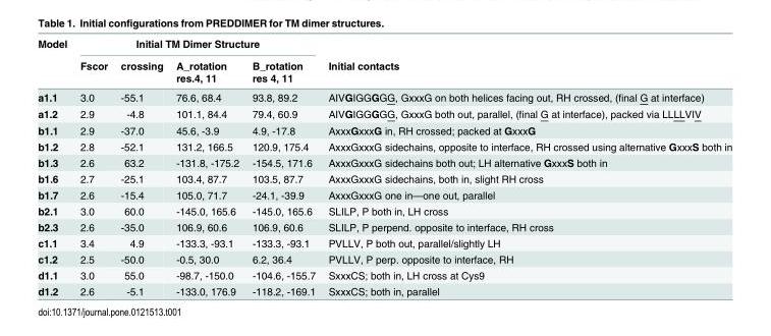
<table><thead><tr><td rowspan="2">Model</td><td colspan="4">Initial TM Dimer Structure</td><td rowspan="2">Initial contacts</td></tr><tr><td>Fscor</td><td>crossing</td><td>A_rotation res.4, 11</td><td>B_rotation res 4, 11</td></tr></thead><tbody><tr><td>a1.1</td><td>3.0</td><td>-55.1</td><td>76.6, 68.4</td><td>93.8, 89.2</td><td>AIVGIGGGGG, GxxxG on both helices facing out, RH crossed, (final G at interface)</td></tr><tr><td>a1.2</td><td>2.9</td><td>-4.8</td><td>101.1, 84.4</td><td>79.4, 60.9</td><td>AIVGIGGGGG, GxxxG both out, parallel, (final G at interface), packed via LLLLVIV</td></tr><tr><td>b1.1</td><td>2.9</td><td>-37.0</td><td>45.6, -3.9</td><td>4.9, -17.8</td><td>AxxxGxxxG in, RH crossed; packed at GxxxG</td></tr><tr><td>b1.2</td><td>2.8</td><td>-52.1</td><td>131.2, 166.5</td><td>120.9, 175.4</td><td>AxxxGxxxG sidechains, opposite to interface, RH crossed using alternative GxxxS both in</td></tr><tr><td>b1.3</td><td>2.6</td><td>63.2</td><td>-131.8, -175.2</td><td>-154.5, 171.6</td><td>AxxxGxxxG sidechains both out; LH alternative GxxxS both in</td></tr><tr><td>b1.6</td><td>2.7</td><td>-25.1</td><td>103.4, 87.7</td><td>103.5, 87.7</td><td>AxxxGxxxG sidechains, both in, slight RH cross</td></tr><tr><td>b1.7</td><td>2.6</td><td>-15.4</td><td>105.0, 71.7</td><td>-24.1, -39.9</td><td>AxxxGxxxG one in—one out, parallel</td></tr><tr><td>b2.1</td><td>3.0</td><td>60.0</td><td>-145.0, 165.6</td><td>-145.0, 165.6</td><td>SLILP, P both in, LH cross</td></tr><tr><td>b2.3</td><td>2.6</td><td>-35.0</td><td>106.9, 60.6</td><td>106.9, 60.6</td><td>SLILP, P perpend. opposite to interface, RH cross</td></tr><tr><td>c1.1</td><td>3.4</td><td>4.9</td><td>-133.3, -93.1</td><td>-133.3, -93.1</td><td>PVLLV, P both out, parallel/slightly LH</td></tr><tr><td>c1.2</td><td>2.5</td><td>-50.0</td><td>-0.5, 30.0</td><td>6.2, 36.4</td><td>PVLLV, P perp. opposite to interface, RH</td></tr><tr><td>d1.1</td><td>3.0</td><td>55.0</td><td>-98.7, -150.0</td><td>-104.6, -155.7</td><td>SxxxCS; both in, LH cross at Cys9</td></tr><tr><td>d1.2</td><td>2.6</td><td>-5.1</td><td>-133.0, 176.9</td><td>-118.2, -169.1</td><td>SxxxCS; both in, parallel</td></tr></tbody></table>